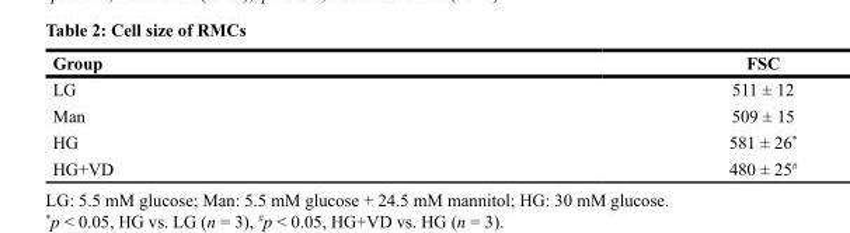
<table><thead><tr><td>Group</td><td>FSC</td></tr></thead><tbody><tr><td>LG</td><td>511 ± 12</td></tr><tr><td>Man</td><td>509 ± 15</td></tr><tr><td>HG</td><td>581 ± 26*</td></tr><tr><td>HG+VD</td><td>480 ± 25<sup>#</sup></td></tr></tbody></table>